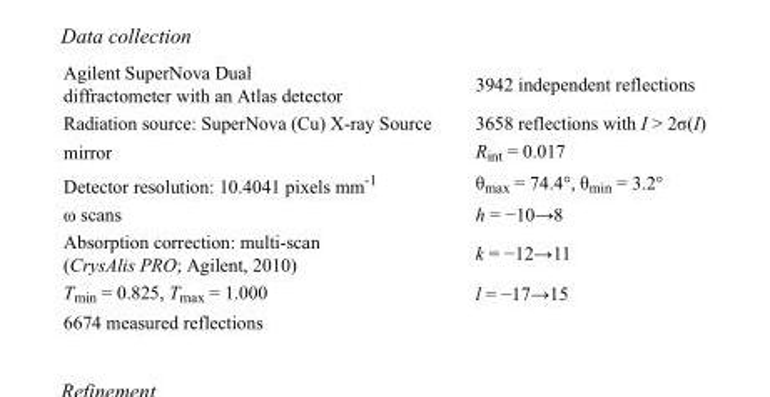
<table><tbody><tr><td>Agilent SuperNova Dual diffractometer with an Atlas detector</td><td>3942 independent reflections</td></tr><tr><td>Radiation source: SuperNova (Cu) X-ray Source</td><td>3658 reflections with I &gt; 2σ(I)</td></tr><tr><td>mirror</td><td>R<sub>int</sub> = 0.017</td></tr><tr><td>Detector resolution: 10.4041 pixels mm<sup>-1</sup></td><td>θ<sub>max</sub> = 74.4°, θ<sub>min</sub> = 3.2°</td></tr><tr><td>ω scans</td><td>h = −10→8</td></tr><tr><td>Absorption correction: multi-scan (CrysAlis PRO; Agilent, 2010)</td><td>k = −12→11</td></tr><tr><td>T<sub>min</sub> = 0.825, T<sub>max</sub> = 1.000</td><td>l = −17→15</td></tr><tr><td>6674 measured reflections</td><td></td></tr></tbody></table>